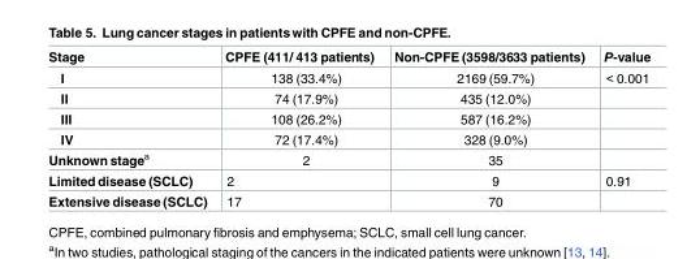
<table><thead><tr><td>Stage</td><td>CPFE (411/ 413 patients)</td><td>Non-CPFE (3598/3633 patients)</td><td>P-value</td></tr></thead><tbody><tr><td>I</td><td>138 (33.4%)</td><td>2169 (59.7%)</td><td>&lt; 0.001</td></tr><tr><td>II</td><td>74 (17.9%)</td><td>435 (12.0%)</td><td></td></tr><tr><td>III</td><td>108 (26.2%)</td><td>587 (16.2%)</td><td></td></tr><tr><td>IV</td><td>72 (17.4%)</td><td>328 (9.0%)</td><td></td></tr><tr><td>Unknown stage<sup>a</sup></td><td>2</td><td>35</td><td></td></tr><tr><td>Limited disease (SCLC)</td><td>2</td><td>9</td><td>0.91</td></tr><tr><td>Extensive disease (SCLC)</td><td>17</td><td>70</td><td></td></tr></tbody></table>